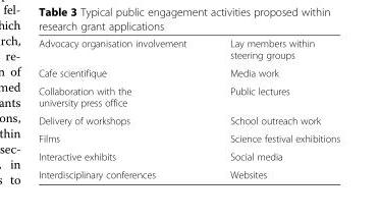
<table><tbody><tr><td>Advocacy organisation involvement</td><td>Lay members within steering groups</td></tr><tr><td>Cafe scientifique</td><td>Media work</td></tr><tr><td>Collaboration with the university press office</td><td>Public lectures</td></tr><tr><td>Delivery of workshops</td><td>School outreach work</td></tr><tr><td>Films</td><td>Science festival exhibitions</td></tr><tr><td>Interactive exhibits</td><td>Social media</td></tr><tr><td>Interdisciplinary conferences</td><td>Websites</td></tr></tbody></table>